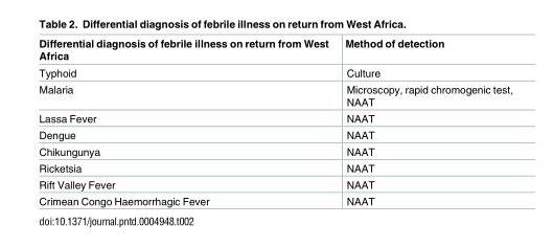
<table><thead><tr><td>Differential diagnosis of febrile illness on return from West Africa</td><td>Method of detection</td></tr></thead><tbody><tr><td>Typhoid</td><td>Culture</td></tr><tr><td>Malaria</td><td>Microscopy, rapid chromogenic test, NAAT</td></tr><tr><td>Lassa Fever</td><td>NAAT</td></tr><tr><td>Dengue</td><td>NAAT</td></tr><tr><td>Chikungunya</td><td>NAAT</td></tr><tr><td>Ricketsia</td><td>NAAT</td></tr><tr><td>Rift Valley Fever</td><td>NAAT</td></tr><tr><td>Crimean Congo Haemorrhagic Fever</td><td>NAAT</td></tr></tbody></table>